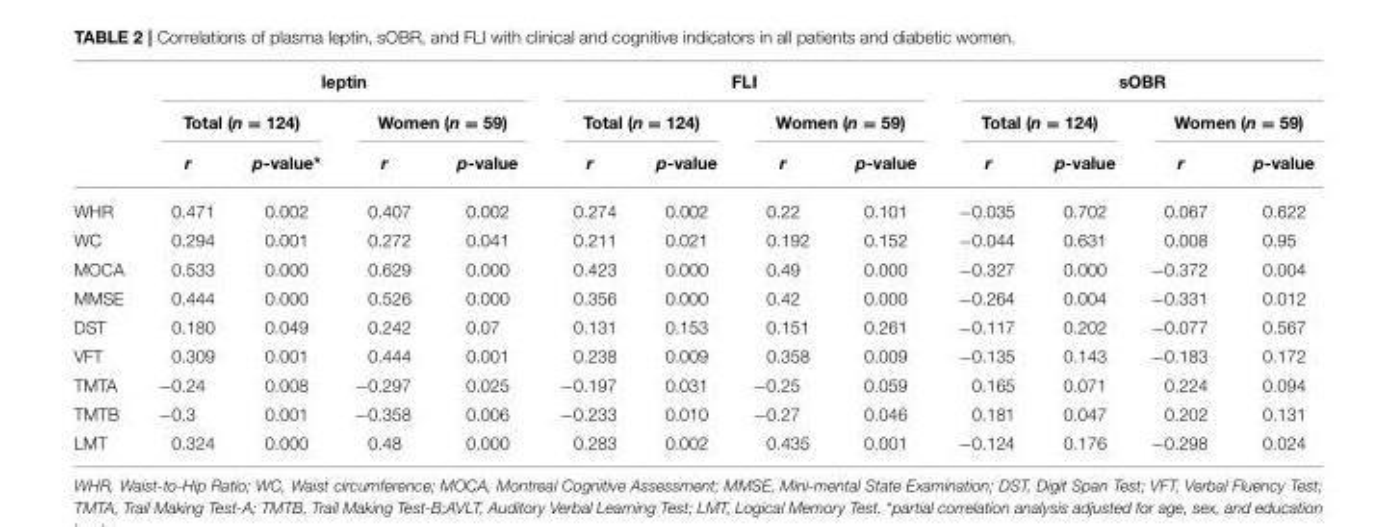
<table><thead><tr><td rowspan="3"></td><td colspan="4">leptin</td><td colspan="4">FLI</td><td colspan="4">sOBR</td></tr><tr><td colspan="2">Total (n = 124)</td><td colspan="2">Women (n = 59)</td><td colspan="2">Total (n = 124)</td><td colspan="2">Women (n = 59)</td><td colspan="2">Total (n = 124)</td><td colspan="2">Women (n = 59)</td></tr><tr><td>r</td><td>p-value*</td><td>r</td><td>p-value</td><td>r</td><td>p-value</td><td>r</td><td>p-value</td><td>r</td><td>p-value</td><td>r</td><td>p-value</td></tr></thead><tbody><tr><td>WHR</td><td>0.471</td><td>0.002</td><td>0.407</td><td>0.002</td><td>0.274</td><td>0.002</td><td>0.22</td><td>0.101</td><td>−0.035</td><td>0.702</td><td>0.067</td><td>0.622</td></tr><tr><td>WC</td><td>0.294</td><td>0.001</td><td>0.272</td><td>0.041</td><td>0.211</td><td>0.021</td><td>0.192</td><td>0.152</td><td>−0.044</td><td>0.631</td><td>0.008</td><td>0.95</td></tr><tr><td>MOCA</td><td>0.533</td><td>0.000</td><td>0.629</td><td>0.000</td><td>0.423</td><td>0.000</td><td>0.49</td><td>0.000</td><td>−0.327</td><td>0.000</td><td>−0.372</td><td>0.004</td></tr><tr><td>MMSE</td><td>0.444</td><td>0.000</td><td>0.526</td><td>0.000</td><td>0.356</td><td>0.000</td><td>0.42</td><td>0.000</td><td>−0.264</td><td>0.004</td><td>−0.331</td><td>0.012</td></tr><tr><td>DST</td><td>0.180</td><td>0.049</td><td>0.242</td><td>0.07</td><td>0.131</td><td>0.153</td><td>0.151</td><td>0.261</td><td>−0.117</td><td>0.202</td><td>−0.077</td><td>0.567</td></tr><tr><td>VFT</td><td>0.309</td><td>0.001</td><td>0.444</td><td>0.001</td><td>0.238</td><td>0.009</td><td>0.358</td><td>0.009</td><td>−0.135</td><td>0.143</td><td>−0.183</td><td>0.172</td></tr><tr><td>TMTA</td><td>−0.24</td><td>0.008</td><td>−0.297</td><td>0.025</td><td>−0.197</td><td>0.031</td><td>−0.25</td><td>0.059</td><td>0.165</td><td>0.071</td><td>0.224</td><td>0.094</td></tr><tr><td>TMTB</td><td>−0.3</td><td>0.001</td><td>−0.358</td><td>0.006</td><td>−0.233</td><td>0.010</td><td>−0.27</td><td>0.046</td><td>0.181</td><td>0.047</td><td>0.202</td><td>0.131</td></tr><tr><td>LMT</td><td>0.324</td><td>0.000</td><td>0.48</td><td>0.000</td><td>0.283</td><td>0.002</td><td>0.435</td><td>0.001</td><td>−0.124</td><td>0.176</td><td>−0.298</td><td>0.024</td></tr></tbody></table>